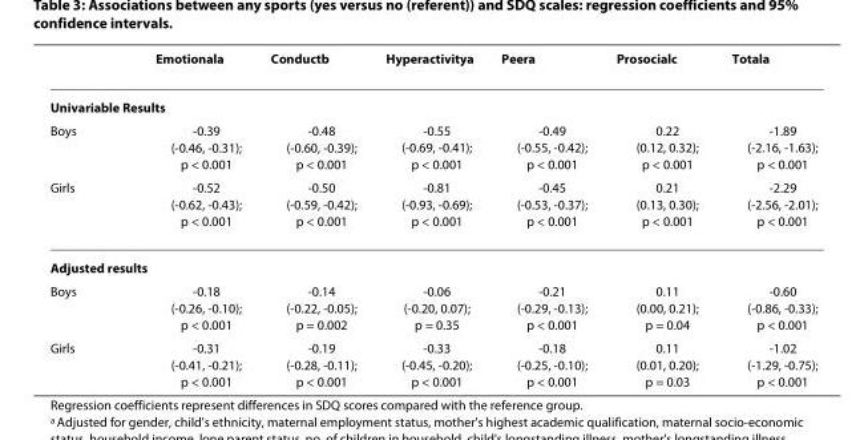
<table><thead><tr><td></td><td>Emotional<sup>a</sup></td><td>Conduct<sup>b</sup></td><td>Hyperactivity<sup>a</sup></td><td>Peer<sup>a</sup></td><td>Prosocial<sup>c</sup></td><td>Total<sup>a</sup></td></tr></thead><tbody><tr><td colspan="7">Univariable Results</td></tr><tr><td>Boys</td><td>-0.39 (-0.46, -0.31); p &lt; 0.001</td><td>-0.48 (-0.60, -0.39); p &lt; 0.001</td><td>-0.55 (-0.69, -0.41); p &lt; 0.001</td><td>-0.49 (-0.55, -0.42); p &lt; 0.001</td><td>0.22 (0.12, 0.32); p &lt; 0.001</td><td>-1.89 (-2.16, -1.63); p &lt; 0.001</td></tr><tr><td>Girls</td><td>-0.52 (-0.62, -0.43); p &lt; 0.001</td><td>-0.50 (-0.59, -0.42); p &lt; 0.001</td><td>-0.81 (-0.93, -0.69); p &lt; 0.001</td><td>-0.45 (-0.53, -0.37); p &lt; 0.001</td><td>0.21 (0.13, 0.30); p &lt; 0.001</td><td>-2.29 (-2.56, -2.01); p &lt; 0.001</td></tr><tr><td colspan="7">Adjusted results</td></tr><tr><td>Boys</td><td>-0.18 (-0.26, -0.10); p &lt; 0.001</td><td>-0.14 (-0.22, -0.05); p = 0.002</td><td>-0.06 (-0.20, 0.07); p = 0.35</td><td>-0.21 (-0.29, -0.13); p &lt; 0.001</td><td>0.11 (0.00, 0.21); p = 0.04</td><td>-0.60 (-0.86, -0.33); p &lt; 0.001</td></tr><tr><td>Girls</td><td>-0.31 (-0.41, -0.21); p &lt; 0.001</td><td>-0.19 (-0.28, -0.11); p &lt; 0.001</td><td>-0.33 (-0.45, -0.20); p &lt; 0.001</td><td>-0.18 (-0.25, -0.10); p &lt; 0.001</td><td>0.11 (0.01, 0.20); p = 0.03</td><td>-1.02 (-1.29, -0.75); p &lt; 0.001</td></tr></tbody></table>